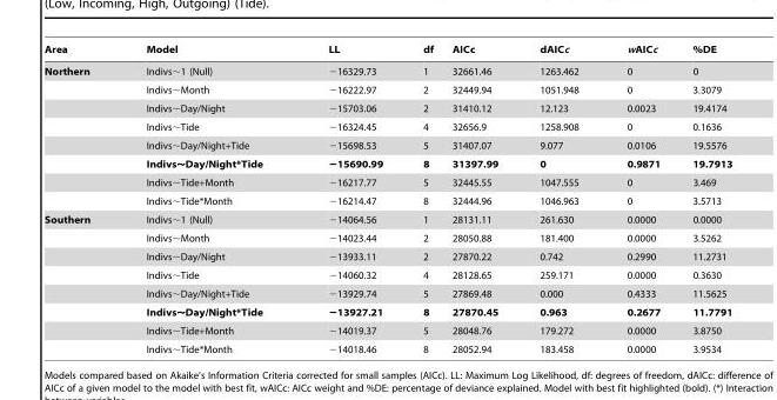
<table><thead><tr><td>Area</td><td>Model</td><td>LL</td><td>df</td><td>AICc</td><td>dAICc</td><td>wAICc</td><td>%DE</td></tr></thead><tbody><tr><td rowspan="8">Northern</td><td>Indivs∼1 (Null)</td><td>−16329.73</td><td>1</td><td>32661.46</td><td>1263.462</td><td>0</td><td>0</td></tr><tr><td>Indivs∼Month</td><td>−16222.97</td><td>2</td><td>32449.94</td><td>1051.948</td><td>0</td><td>3.3079</td></tr><tr><td>Indivs∼Day/Night</td><td>−15703.06</td><td>2</td><td>31410.12</td><td>12.123</td><td>0.0023</td><td>19.4174</td></tr><tr><td>Indivs∼Tide</td><td>−16324.45</td><td>4</td><td>32656.9</td><td>1258.908</td><td>0</td><td>0.1636</td></tr><tr><td>Indivs∼Day/Night+Tide</td><td>−15698.53</td><td>5</td><td>31407.07</td><td>9.077</td><td>0.0106</td><td>19.5576</td></tr><tr><td>Indivs∼Day/Night*Tide</td><td>−15690.99</td><td>8</td><td>31397.99</td><td>0</td><td>0.9871</td><td>19.7913</td></tr><tr><td>Indivs∼Tide+Month</td><td>−16217.77</td><td>5</td><td>32445.55</td><td>1047.555</td><td>0</td><td>3.469</td></tr><tr><td>Indivs∼Tide*Month</td><td>−16214.47</td><td>8</td><td>32444.96</td><td>1046.963</td><td>0</td><td>3.5713</td></tr><tr><td rowspan="8">Southern</td><td>Indivs∼1 (Null)</td><td>−14064.56</td><td>1</td><td>28131.11</td><td>261.630</td><td>0.0000</td><td>0.0000</td></tr><tr><td>Indivs∼Month</td><td>−14023.44</td><td>2</td><td>28050.88</td><td>181.400</td><td>0.0000</td><td>3.5262</td></tr><tr><td>Indivs∼Day/Night</td><td>−13933.11</td><td>2</td><td>27870.22</td><td>0.742</td><td>0.2990</td><td>11.2731</td></tr><tr><td>Indivs∼Tide</td><td>−14060.32</td><td>4</td><td>28128.65</td><td>259.171</td><td>0.0000</td><td>0.3630</td></tr><tr><td>Indivs∼Day/Night+Tide</td><td>−13929.74</td><td>5</td><td>27869.48</td><td>0.000</td><td>0.4333</td><td>11.5625</td></tr><tr><td>Indivs∼Day/Night*Tide</td><td>−13927.21</td><td>8</td><td>27870.45</td><td>0.963</td><td>0.2677</td><td>11.7791</td></tr><tr><td>Indivs∼Tide+Month</td><td>−14019.37</td><td>5</td><td>28048.76</td><td>179.272</td><td>0.0000</td><td>3.8750</td></tr><tr><td>Indivs∼Tide*Month</td><td>−14018.46</td><td>8</td><td>28052.94</td><td>183.458</td><td>0.0000</td><td>3.9534</td></tr></tbody></table>